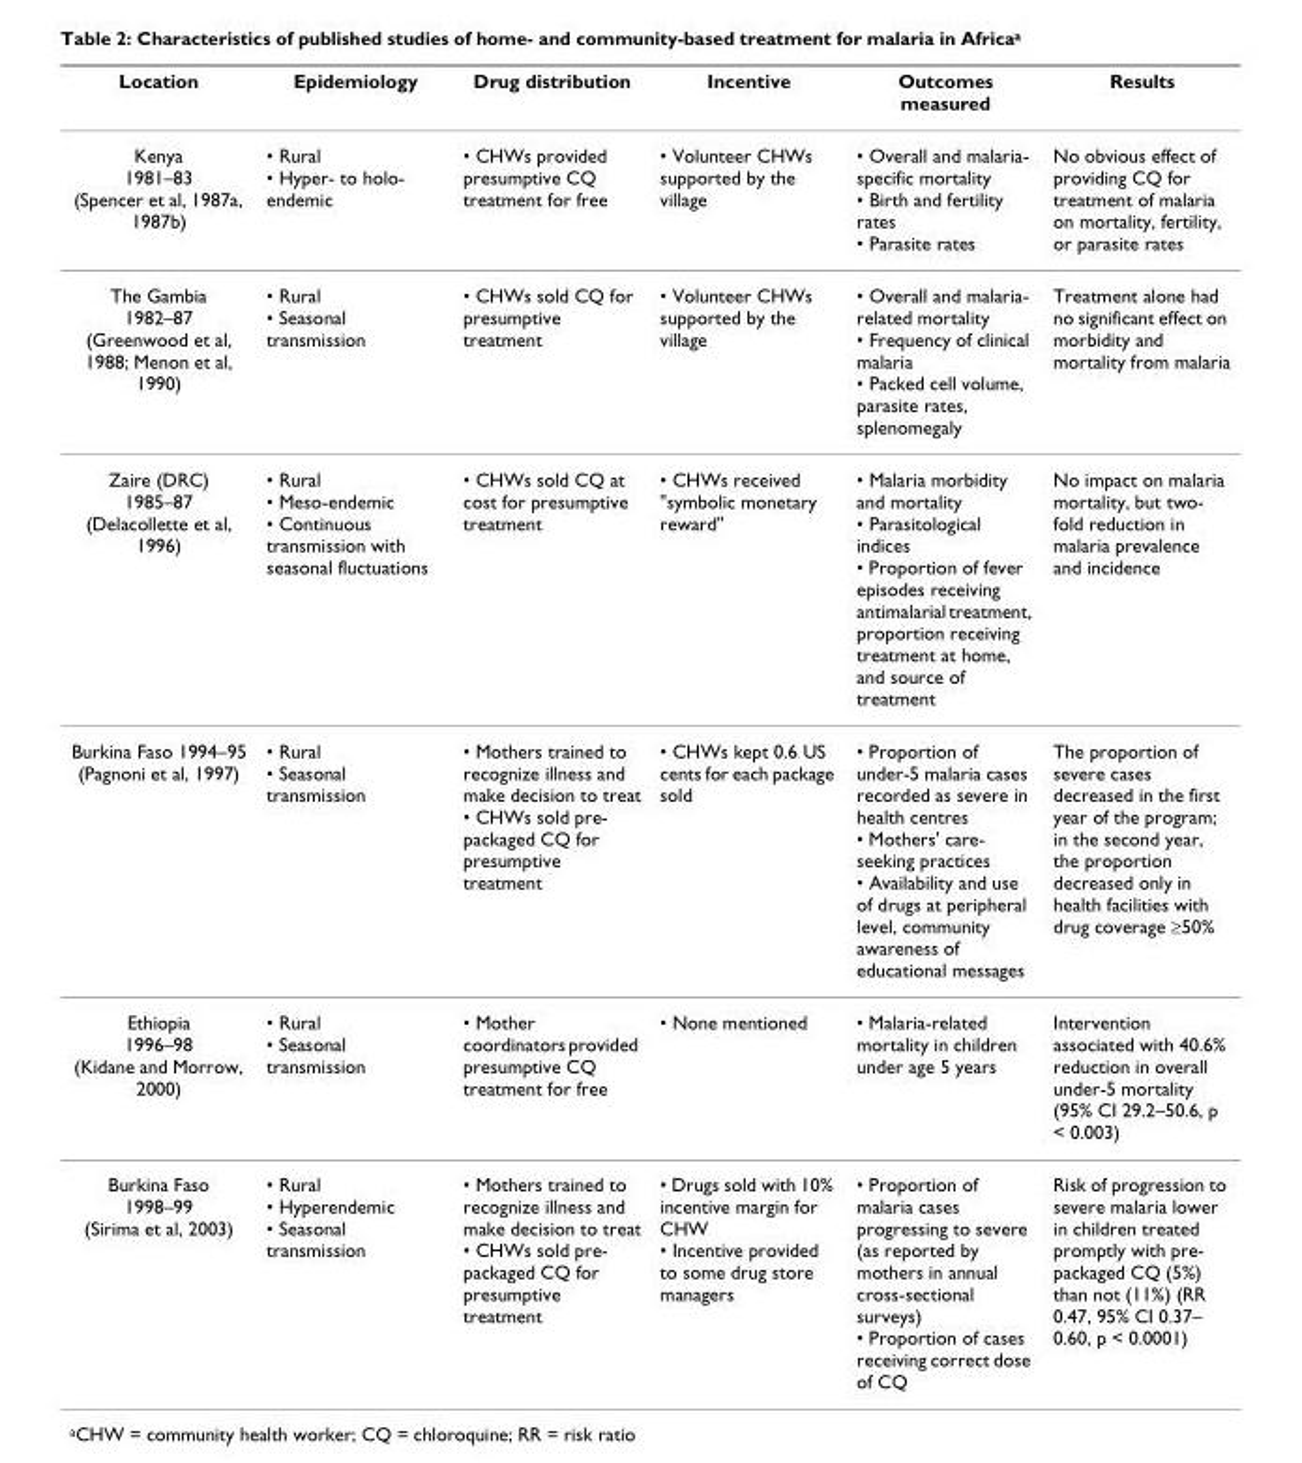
<table><thead><tr><td>Location</td><td>Epidemiology</td><td>Drug distribution</td><td>Incentive</td><td>Outcomes measured</td><td>Results</td></tr></thead><tbody><tr><td>Kenya 1981–83 (Spencer et al, 1987a, 1987b)</td><td>• Rural • Hyper- to holo- endemic</td><td>• CHWs provided presumptive CQ treatment for free</td><td>• Volunteer CHWs supported by the village</td><td>• Overall and malaria- specific mortality • Birth and fertility rates • Parasite rates</td><td>No obvious effect of providing CQ for treatment of malaria on mortality, fertility, or parasite rates</td></tr><tr><td>The Gambia 1982–87 (Greenwood et al, 1988; Menon et al, 1990)</td><td>• Rural • Seasonal transmission</td><td>• CHWs sold CQ for presumptive treatment</td><td>• Volunteer CHWs supported by the village</td><td>• Overall and malaria- related mortality • Frequency of clinical malaria • Packed cell volume, parasite rates, splenomegaly</td><td>Treatment alone had no significant effect on morbidity and mortality from malaria</td></tr><tr><td>Zaire (DRC) 1985–87 (Delacollette et al, 1996)</td><td>• Rural • Meso-endemic • Continuous transmission with seasonal fluctuations</td><td>• CHWs sold CQ at cost for presumptive treatment</td><td>• CHWs received &quot;symbolic monetary reward&quot;</td><td>• Malaria morbidity and mortality • Parasitological indices • Proportion of fever episodes receiving antimalarial treatment, proportion receiving treatment at home, and source of treatment</td><td>No impact on malaria mortality, but two- fold reduction in malaria prevalence and incidence</td></tr><tr><td>Burkina Faso 1994–95 (Pagnoni et al, 1997)</td><td>• Rural • Seasonal transmission</td><td>• Mothers trained to recognize illness and make decision to treat • CHWs sold pre- packaged CQ for presumptive treatment</td><td>• CHWs kept 0.6 US cents for each package sold</td><td>• Proportion of under-5 malaria cases recorded as severe in health centres • Mothers&#x27; care- seeking practices • Availability and use of drugs at peripheral level, community awareness of educational messages</td><td>The proportion of severe cases decreased in the first year of the program; in the second year, the proportion decreased only in health facilities with drug coverage ≥50%</td></tr><tr><td>Ethiopia 1996–98 (Kidane and Morrow, 2000)</td><td>• Rural • Seasonal transmission</td><td>• Mother coordinators provided presumptive CQ treatment for free</td><td>• None mentioned</td><td>• Malaria-related mortality in children under age 5 years</td><td>Intervention associated with 40.6% reduction in overall under-5 mortality (95% CI 29.2–50.6, p &lt; 0.003)</td></tr><tr><td>Burkina Faso 1998–99 (Sirima et al, 2003)</td><td>• Rural • Hyperendemic • Seasonal transmission</td><td>• Mothers trained to recognize illness and make decision to treat • CHWs sold pre- packaged CQ for presumptive treatment</td><td>• Drugs sold with 10% incentive margin for CHW • Incentive provided to some drug store managers</td><td>• Proportion of malaria cases progressing to severe (as reported by mothers in annual cross-sectional surveys) • Proportion of cases receiving correct dose of CQ</td><td>Risk of progression to severe malaria lower in children treated promptly with pre- packaged CQ (5%) than not (11%) (RR 0.47, 95% CI 0.37– 0.60, p &lt; 0.0001)</td></tr></tbody></table>